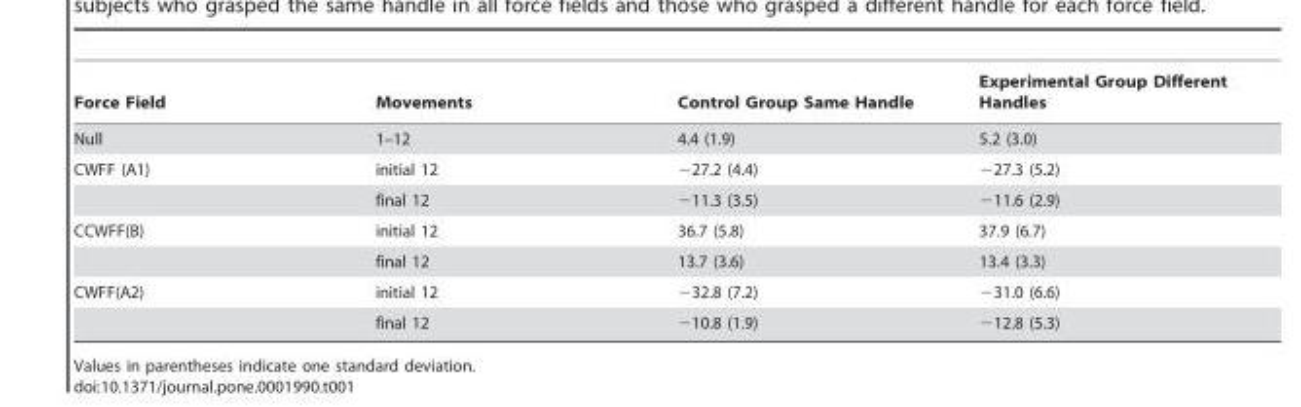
<table><thead><tr><td>Force Field</td><td>Movements</td><td>Control Group Same Handle</td><td>Experimental Group Different Handles</td></tr></thead><tbody><tr><td>Null</td><td>1–12</td><td>4.4 (1.9)</td><td>5.2 (3.0)</td></tr><tr><td rowspan="2">CWFF (A1)</td><td>initial 12</td><td>−27.2 (4.4)</td><td>−27.3 (5.2)</td></tr><tr><td>final 12</td><td>−11.3 (3.5)</td><td>−11.6 (2.9)</td></tr><tr><td rowspan="2">CCWFF(B)</td><td>initial 12</td><td>36.7 (5.8)</td><td>37.9 (6.7)</td></tr><tr><td>final 12</td><td>13.7 (3.6)</td><td>13.4 (3.3)</td></tr><tr><td rowspan="2">CWFF(A2)</td><td>initial 12</td><td>−32.8 (7.2)</td><td>−31.0 (6.6)</td></tr><tr><td>final 12</td><td>−10.8 (1.9)</td><td>−12.8 (5.3)</td></tr></tbody></table>